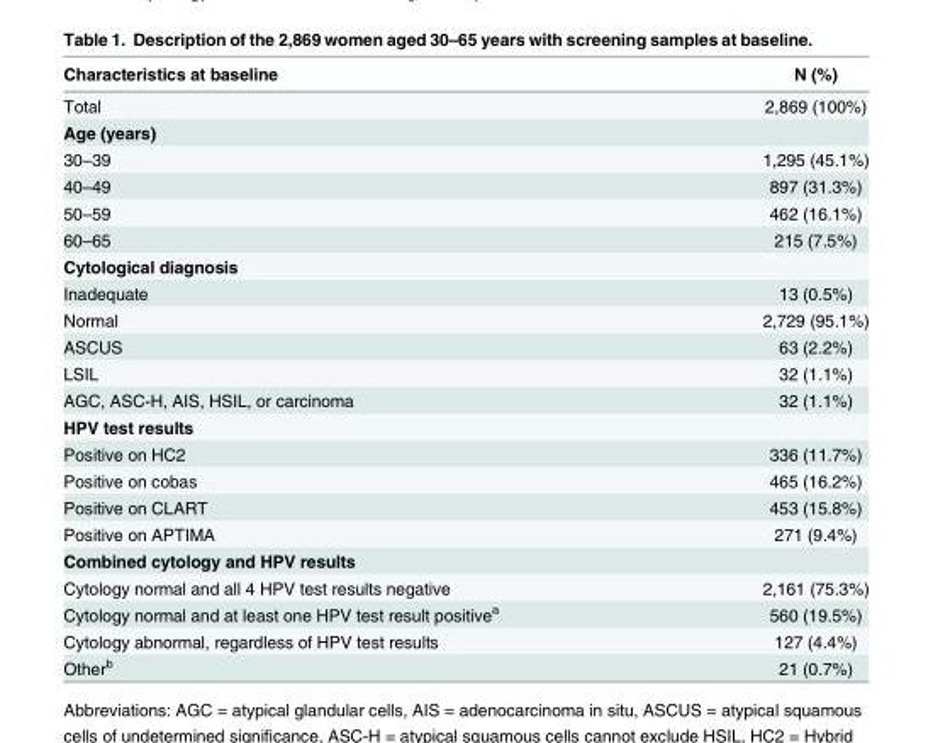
<table><thead><tr><td>Characteristics at baseline</td><td>N (%)</td></tr></thead><tbody><tr><td>Total</td><td>2,869 (100%)</td></tr><tr><td colspan="2">Age (years)</td></tr><tr><td>30–39</td><td>1,295 (45.1%)</td></tr><tr><td>40–49</td><td>897 (31.3%)</td></tr><tr><td>50–59</td><td>462 (16.1%)</td></tr><tr><td>60–65</td><td>215 (7.5%)</td></tr><tr><td colspan="2">Cytological diagnosis</td></tr><tr><td>Inadequate</td><td>13 (0.5%)</td></tr><tr><td>Normal</td><td>2,729 (95.1%)</td></tr><tr><td>ASCUS</td><td>63 (2.2%)</td></tr><tr><td>LSIL</td><td>32 (1.1%)</td></tr><tr><td>AGC, ASC-H, AIS, HSIL, or carcinoma</td><td>32 (1.1%)</td></tr><tr><td colspan="2">HPV test results</td></tr><tr><td>Positive on HC2</td><td>336 (11.7%)</td></tr><tr><td>Positive on cobas</td><td>465 (16.2%)</td></tr><tr><td>Positive on CLART</td><td>453 (15.8%)</td></tr><tr><td>Positive on APTIMA</td><td>271 (9.4%)</td></tr><tr><td colspan="2">Combined cytology and HPV results</td></tr><tr><td>Cytology normal and all 4 HPV test results negative</td><td>2,161 (75.3%)</td></tr><tr><td>Cytology normal and at least one HPV test result positive<sup>a</sup></td><td>560 (19.5%)</td></tr><tr><td>Cytology abnormal, regardless of HPV test results</td><td>127 (4.4%)</td></tr><tr><td>Other<sup>b</sup></td><td>21 (0.7%)</td></tr></tbody></table>